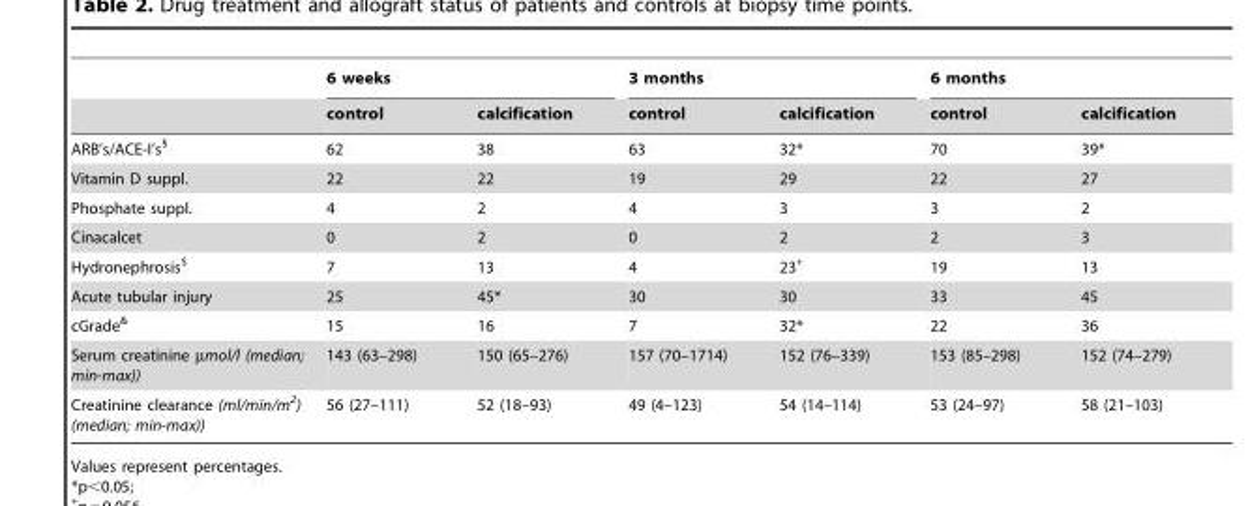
<table><thead><tr><td rowspan="2"></td><td colspan="2">6 weeks</td><td colspan="2">3 months</td><td colspan="2">6 months</td></tr><tr><td>control</td><td>calcification</td><td>control</td><td>calcification</td><td>control</td><td>calcification</td></tr></thead><tbody><tr><td>ARB’s/ACE-I’s§</td><td>62</td><td>38</td><td>63</td><td>32*</td><td>70</td><td>39*</td></tr><tr><td>Vitamin D suppl.</td><td>22</td><td>22</td><td>19</td><td>29</td><td>22</td><td>27</td></tr><tr><td>Phosphate suppl.</td><td>4</td><td>2</td><td>4</td><td>3</td><td>3</td><td>2</td></tr><tr><td>Cinacalcet</td><td>0</td><td>2</td><td>0</td><td>2</td><td>2</td><td>3</td></tr><tr><td>Hydronephrosis$</td><td>7</td><td>13</td><td>4</td><td>23+</td><td>19</td><td>13</td></tr><tr><td>Acute tubular injury</td><td>25</td><td>45*</td><td>30</td><td>30</td><td>33</td><td>45</td></tr><tr><td>cGrade&amp;</td><td>15</td><td>16</td><td>7</td><td>32*</td><td>22</td><td>36</td></tr><tr><td>Serum creatinine µmol/l (median; min-max))</td><td>143 (63–298)</td><td>150 (65–276)</td><td>157 (70–1714)</td><td>152 (76–339)</td><td>153 (85–298)</td><td>152 (74–279)</td></tr><tr><td>Creatinine clearance (ml/min/m<sup>2</sup>) (median; min-max))</td><td>56 (27–111)</td><td>52 (18–93)</td><td>49 (4–123)</td><td>54 (14–114)</td><td>53 (24–97)</td><td>58 (21–103)</td></tr></tbody></table>